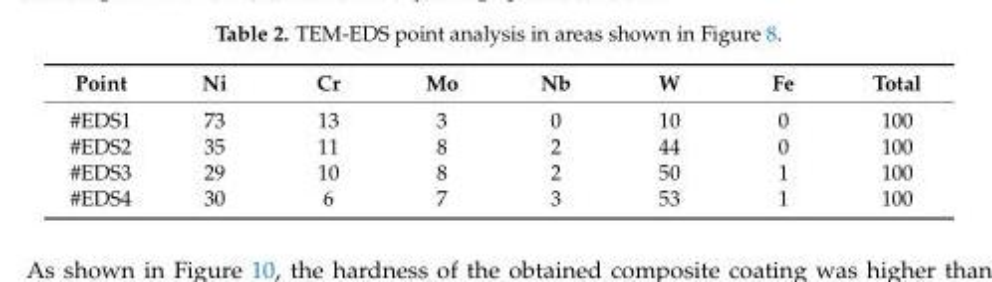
<table><thead><tr><td>Point</td><td>Ni</td><td>Cr</td><td>Mo</td><td>Nb</td><td>W</td><td>Fe</td><td>Total</td></tr></thead><tbody><tr><td>#EDS1</td><td>73</td><td>13</td><td>3</td><td>0</td><td>10</td><td>0</td><td>100</td></tr><tr><td>#EDS2</td><td>35</td><td>11</td><td>8</td><td>2</td><td>44</td><td>0</td><td>100</td></tr><tr><td>#EDS3</td><td>29</td><td>10</td><td>8</td><td>2</td><td>50</td><td>1</td><td>100</td></tr><tr><td>#EDS4</td><td>30</td><td>6</td><td>7</td><td>3</td><td>53</td><td>1</td><td>100</td></tr></tbody></table>